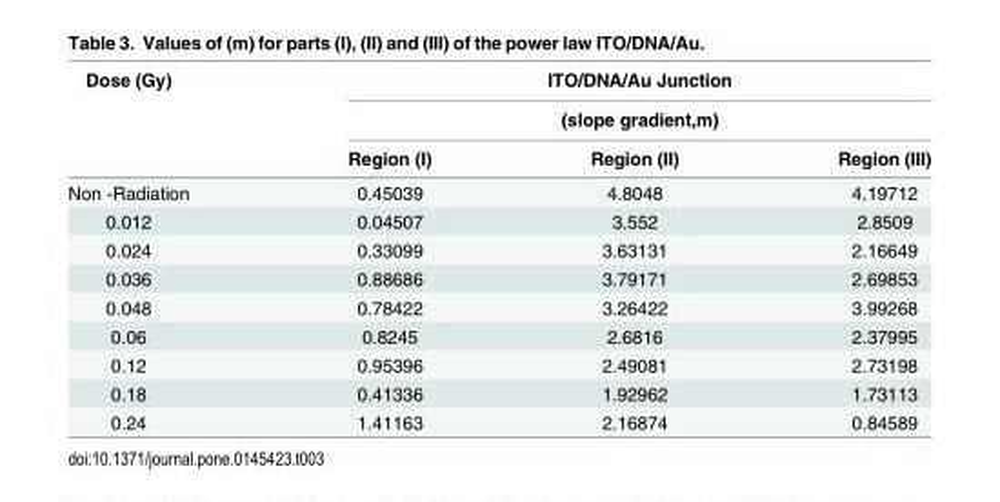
<table><thead><tr><td rowspan="3">Dose (Gy)</td><td rowspan="2" colspan="3">ITO/DNA/Au Junction (slope gradient,m)</td></tr><tr></tr><tr><td>Region (I)</td><td>Region (II)</td><td>Region (III)</td></tr></thead><tbody><tr><td>Non -Radiation</td><td>0.45039</td><td>4.8048</td><td>4.19712</td></tr><tr><td>0.012</td><td>0.04507</td><td>3.552</td><td>2.8509</td></tr><tr><td>0.024</td><td>0.33099</td><td>3.63131</td><td>2.16649</td></tr><tr><td>0.036</td><td>0.88686</td><td>3.79171</td><td>2.69853</td></tr><tr><td>0.048</td><td>0.78422</td><td>3.26422</td><td>3.99268</td></tr><tr><td>0.06</td><td>0.8245</td><td>2.6816</td><td>2.37995</td></tr><tr><td>0.12</td><td>0.95396</td><td>2.49081</td><td>2.73198</td></tr><tr><td>0.18</td><td>0.41336</td><td>1.92962</td><td>1.73113</td></tr><tr><td>0.24</td><td>1.41163</td><td>2.16874</td><td>0.84589</td></tr></tbody></table>